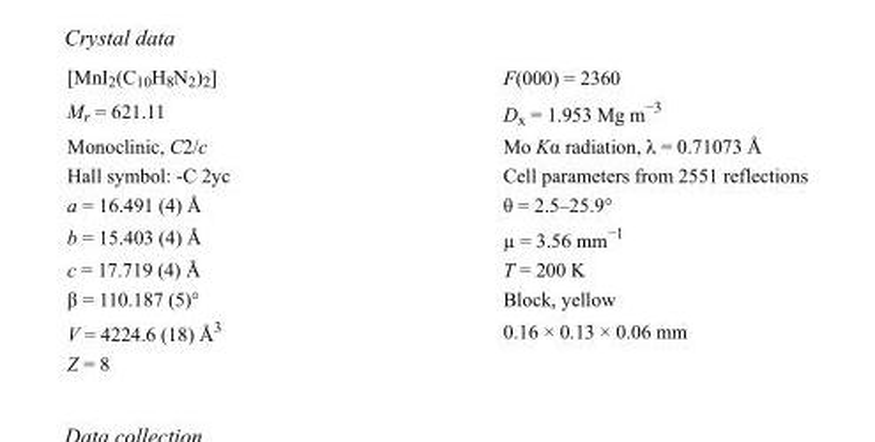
<table><tbody><tr><td>[MnI<sub>2</sub>(C<sub>10</sub>H<sub>8</sub>N<sub>2</sub>)<sub>2</sub>]</td><td>F(000) = 2360</td></tr><tr><td>M<sub>r</sub> = 621.11</td><td>D<sub>x</sub> = 1.953 Mg m<sup>−3</sup></td></tr><tr><td>Monoclinic, C2/c</td><td>Mo Kα radiation, λ = 0.71073 Å</td></tr><tr><td>Hall symbol: -C 2yc</td><td>Cell parameters from 2551 reflections</td></tr><tr><td>a = 16.491 (4) Å</td><td>θ = 2.5–25.9°</td></tr><tr><td>b = 15.403 (4) Å</td><td>µ = 3.56 mm<sup>−1</sup></td></tr><tr><td>c = 17.719 (4) Å</td><td>T = 200 K</td></tr><tr><td>β = 110.187 (5)°</td><td>Block, yellow</td></tr><tr><td>V = 4224.6 (18) Å<sup>3</sup></td><td>0.16 × 0.13 × 0.06 mm</td></tr><tr><td>Z = 8</td><td></td></tr></tbody></table>